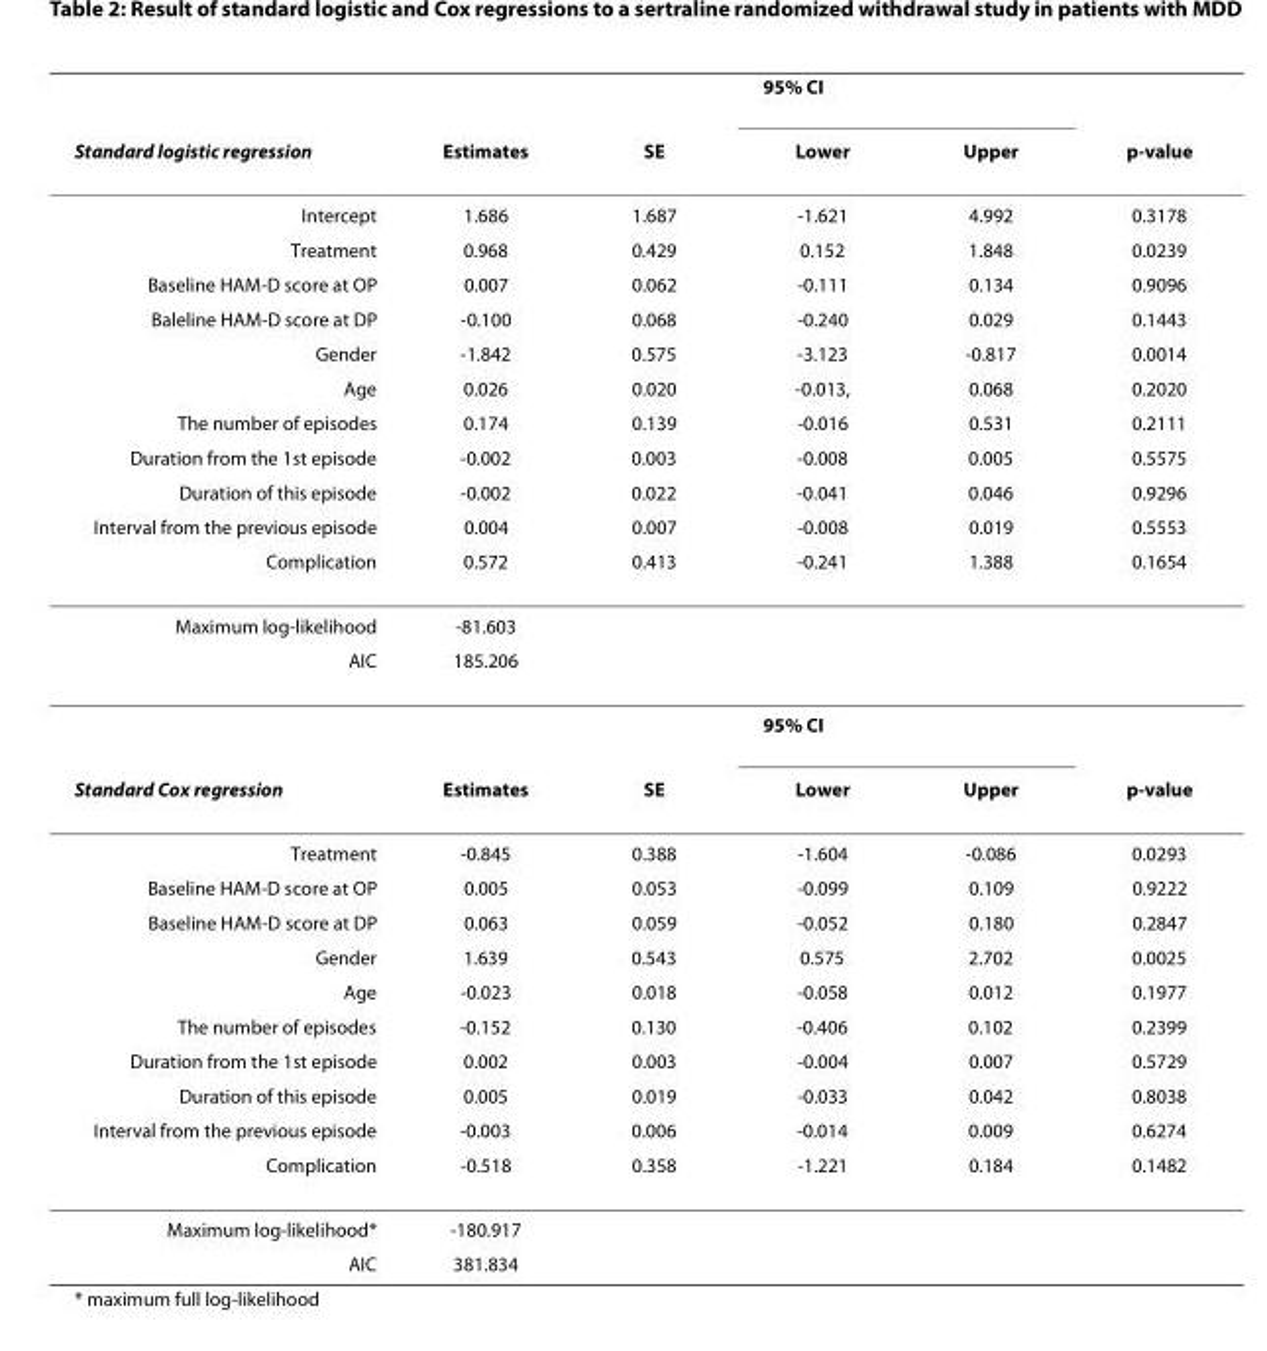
<table><thead><tr><td rowspan="2">Standard logistic regression</td><td rowspan="2">Estimates</td><td rowspan="2">SE</td><td colspan="2">95% CI</td><td rowspan="2">p-value</td></tr><tr><td>Lower</td><td>Upper</td></tr></thead><tbody><tr><td>Intercept</td><td>1.686</td><td>1.687</td><td>-1.621</td><td>4.992</td><td>0.3178</td></tr><tr><td>Treatment</td><td>0.968</td><td>0.429</td><td>0.152</td><td>1.848</td><td>0.0239</td></tr><tr><td>Baseline HAM-D score at OP</td><td>0.007</td><td>0.062</td><td>-0.111</td><td>0.134</td><td>0.9096</td></tr><tr><td>Baleline HAM-D score at DP</td><td>-0.100</td><td>0.068</td><td>-0.240</td><td>0.029</td><td>0.1443</td></tr><tr><td>Gender</td><td>-1.842</td><td>0.575</td><td>-3.123</td><td>-0.817</td><td>0.0014</td></tr><tr><td>Age</td><td>0.026</td><td>0.020</td><td>-0.013,</td><td>0.068</td><td>0.2020</td></tr><tr><td>The number of episodes</td><td>0.174</td><td>0.139</td><td>-0.016</td><td>0.531</td><td>0.2111</td></tr><tr><td>Duration from the 1st episode</td><td>-0.002</td><td>0.003</td><td>-0.008</td><td>0.005</td><td>0.5575</td></tr><tr><td>Duration of this episode</td><td>-0.002</td><td>0.022</td><td>-0.041</td><td>0.046</td><td>0.9296</td></tr><tr><td>Interval from the previous episode</td><td>0.004</td><td>0.007</td><td>-0.008</td><td>0.019</td><td>0.5553</td></tr><tr><td>Complication</td><td>0.572</td><td>0.413</td><td>-0.241</td><td>1.388</td><td>0.1654</td></tr><tr><td>Maximum log-likelihood</td><td>-81.603</td><td></td><td></td><td></td><td></td></tr><tr><td rowspan="2">AIC</td><td>185.206</td><td></td><td></td><td></td><td></td></tr><tr><td></td><td></td><td colspan="2">95% CI</td><td></td></tr><tr><td>Standard Cox regression</td><td>Estimates</td><td>SE</td><td>Lower</td><td>Upper</td><td>p-value</td></tr><tr><td>Treatment</td><td>-0.845</td><td>0.388</td><td>-1.604</td><td>-0.086</td><td>0.0293</td></tr><tr><td>Baseline HAM-D score at OP</td><td>0.005</td><td>0.053</td><td>-0.099</td><td>0.109</td><td>0.9222</td></tr><tr><td>Baseline HAM-D score at DP</td><td>0.063</td><td>0.059</td><td>-0.052</td><td>0.180</td><td>0.2847</td></tr><tr><td>Gender</td><td>1.639</td><td>0.543</td><td>0.575</td><td>2.702</td><td>0.0025</td></tr><tr><td>Age</td><td>-0.023</td><td>0.018</td><td>-0.058</td><td>0.012</td><td>0.1977</td></tr><tr><td>The number of episodes</td><td>-0.152</td><td>0.130</td><td>-0.406</td><td>0.102</td><td>0.2399</td></tr><tr><td>Duration from the 1st episode</td><td>0.002</td><td>0.003</td><td>-0.004</td><td>0.007</td><td>0.5729</td></tr><tr><td>Duration of this episode</td><td>0.005</td><td>0.019</td><td>-0.033</td><td>0.042</td><td>0.8038</td></tr><tr><td>Interval from the previous episode</td><td>-0.003</td><td>0.006</td><td>-0.014</td><td>0.009</td><td>0.6274</td></tr><tr><td>Complication</td><td>-0.518</td><td>0.358</td><td>-1.221</td><td>0.184</td><td>0.1482</td></tr><tr><td>Maximum log-likelihood*</td><td>-180.917</td><td></td><td></td><td></td><td></td></tr><tr><td>AIC</td><td>381.834</td><td></td><td></td><td></td><td></td></tr></tbody></table>